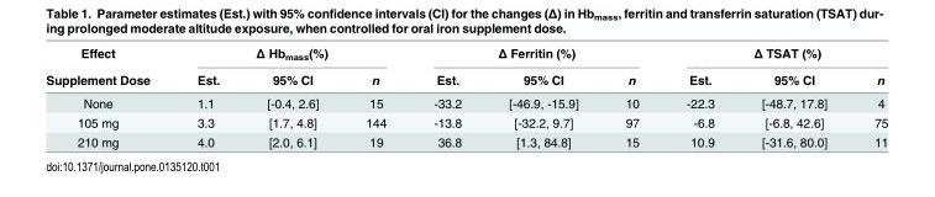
<table><thead><tr><td rowspan="2">Effect Supplement Dose</td><td colspan="3">Δ Hb<sub>mass</sub>(%)</td><td colspan="3">Δ Ferritin (%)</td><td colspan="3">Δ TSAT (%)</td></tr><tr><td>Est.</td><td>95% CI</td><td>n</td><td>Est.</td><td>95% CI</td><td>n</td><td>Est.</td><td>95% CI</td><td>n</td></tr></thead><tbody><tr><td>None</td><td>1.1</td><td>[-0.4, 2.6]</td><td>15</td><td>-33.2</td><td>[-46.9, -15.9]</td><td>10</td><td>-22.3</td><td>[-48.7, 17.8]</td><td>4</td></tr><tr><td>105 mg</td><td>3.3</td><td>[1.7, 4.8]</td><td>144</td><td>-13.8</td><td>[-32.2, 9.7]</td><td>97</td><td>-6.8</td><td>[-6.8, 42.6]</td><td>75</td></tr><tr><td>210 mg</td><td>4.0</td><td>[2.0, 6.1]</td><td>19</td><td>36.8</td><td>[1.3, 84.8]</td><td>15</td><td>10.9</td><td>[-31.6, 80.0]</td><td>11</td></tr></tbody></table>